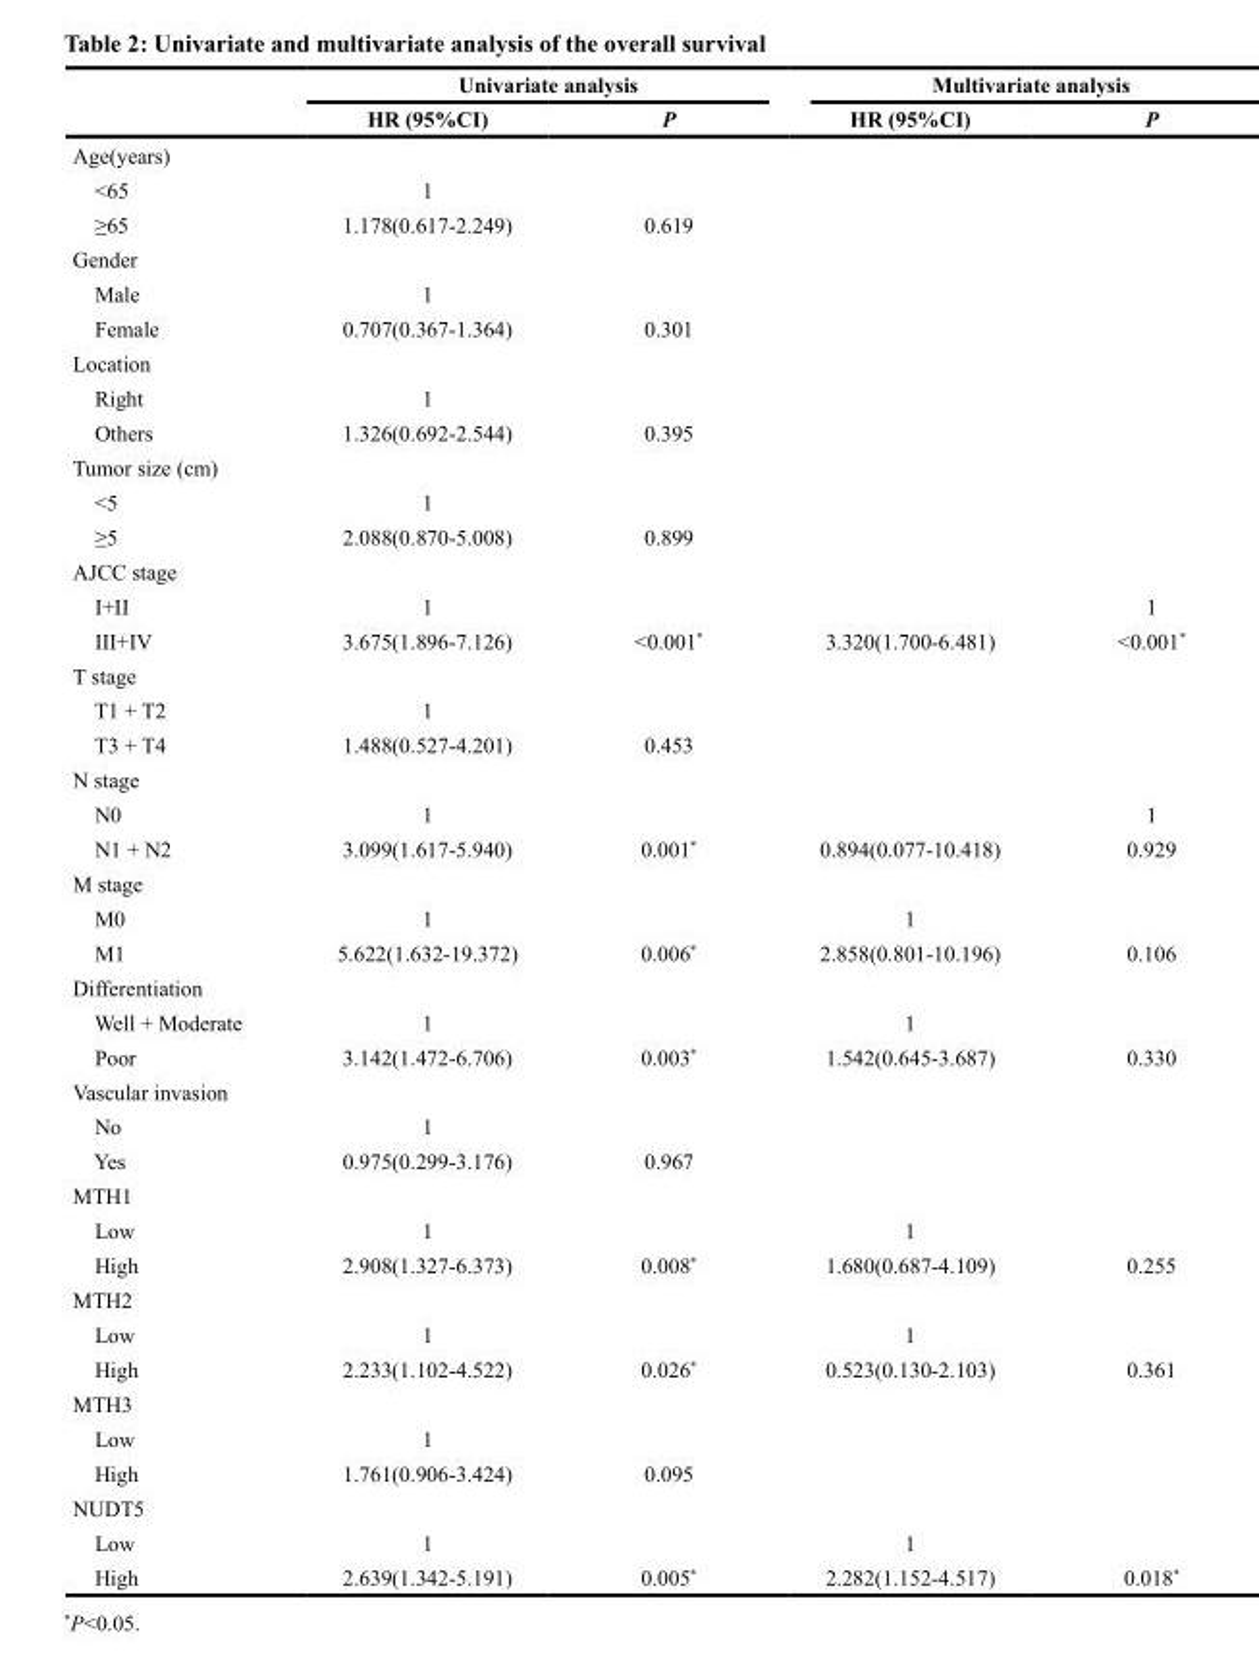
<table><thead><tr><td rowspan="2"></td><td colspan="2">Univariate analysis</td><td colspan="2">Multivariate analysis</td></tr><tr><td>HR (95%CI)</td><td>P</td><td>HR (95%CI)</td><td>P</td></tr></thead><tbody><tr><td colspan="5">Age(years)</td></tr><tr><td>&lt;65</td><td>1</td><td></td><td></td><td></td></tr><tr><td>≥65</td><td>1.178(0.617-2.249)</td><td>0.619</td><td></td><td></td></tr><tr><td colspan="5">Gender</td></tr><tr><td>Male</td><td>1</td><td></td><td></td><td></td></tr><tr><td>Female</td><td>0.707(0.367-1.364)</td><td>0.301</td><td></td><td></td></tr><tr><td colspan="5">Location</td></tr><tr><td>Right</td><td>1</td><td></td><td></td><td></td></tr><tr><td>Others</td><td>1.326(0.692-2.544)</td><td>0.395</td><td></td><td></td></tr><tr><td colspan="5">Tumor size (cm)</td></tr><tr><td>&lt;5</td><td>1</td><td></td><td></td><td></td></tr><tr><td>≥5</td><td>2.088(0.870-5.008)</td><td>0.899</td><td></td><td></td></tr><tr><td colspan="5">AJCC stage</td></tr><tr><td>I+II</td><td>1</td><td></td><td></td><td>1</td></tr><tr><td>III+IV</td><td>3.675(1.896-7.126)</td><td>&lt;0.001*</td><td>3.320(1.700-6.481)</td><td>&lt;0.001*</td></tr><tr><td colspan="5">T stage</td></tr><tr><td>T1 + T2</td><td>1</td><td></td><td></td><td></td></tr><tr><td>T3 + T4</td><td>1.488(0.527-4.201)</td><td>0.453</td><td></td><td></td></tr><tr><td colspan="5">N stage</td></tr><tr><td>N0</td><td>1</td><td></td><td></td><td>1</td></tr><tr><td>N1 + N2</td><td>3.099(1.617-5.940)</td><td>0.001*</td><td>0.894(0.077-10.418)</td><td>0.929</td></tr><tr><td colspan="5">M stage</td></tr><tr><td>M0</td><td>1</td><td></td><td>1</td><td></td></tr><tr><td>M1</td><td>5.622(1.632-19.372)</td><td>0.006*</td><td>2.858(0.801-10.196)</td><td>0.106</td></tr><tr><td colspan="5">Differentiation</td></tr><tr><td>Well + Moderate</td><td>1</td><td></td><td>1</td><td></td></tr><tr><td>Poor</td><td>3.142(1.472-6.706)</td><td>0.003*</td><td>1.542(0.645-3.687)</td><td>0.330</td></tr><tr><td colspan="5">Vascular invasion</td></tr><tr><td>No</td><td>1</td><td></td><td></td><td></td></tr><tr><td>Yes</td><td>0.975(0.299-3.176)</td><td>0.967</td><td></td><td></td></tr><tr><td colspan="5">MTH1</td></tr><tr><td>Low</td><td>1</td><td></td><td>1</td><td></td></tr><tr><td>High</td><td>2.908(1.327-6.373)</td><td>0.008*</td><td>1.680(0.687-4.109)</td><td>0.255</td></tr><tr><td colspan="5">MTH2</td></tr><tr><td>Low</td><td>1</td><td></td><td>1</td><td></td></tr><tr><td>High</td><td>2.233(1.102-4.522)</td><td>0.026*</td><td>0.523(0.130-2.103)</td><td>0.361</td></tr><tr><td colspan="5">MTH3</td></tr><tr><td>Low</td><td>1</td><td></td><td></td><td></td></tr><tr><td>High</td><td>1.761(0.906-3.424)</td><td>0.095</td><td></td><td></td></tr><tr><td colspan="5">NUDT5</td></tr><tr><td>Low</td><td>1</td><td></td><td>1</td><td></td></tr><tr><td>High</td><td>2.639(1.342-5.191)</td><td>0.005*</td><td>2.282(1.152-4.517)</td><td>0.018*</td></tr></tbody></table>